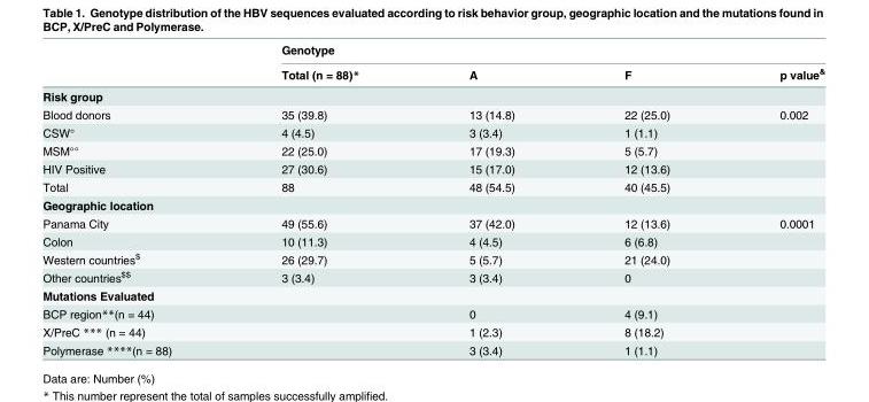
<table><thead><tr><td rowspan="2"></td><td colspan="4">Genotype</td></tr><tr><td>Total (n = 88)*</td><td>A</td><td>F</td><td>p value<sup>&amp;</sup></td></tr></thead><tbody><tr><td colspan="5">Risk group</td></tr><tr><td>Blood donors</td><td>35 (39.8)</td><td>13 (14.8)</td><td>22 (25.0)</td><td>0.002</td></tr><tr><td>CSW°</td><td>4 (4.5)</td><td>3 (3.4)</td><td>1 (1.1)</td><td></td></tr><tr><td>MSM°°</td><td>22 (25.0)</td><td>17 (19.3)</td><td>5 (5.7)</td><td></td></tr><tr><td>HIV Positive</td><td>27 (30.6)</td><td>15 (17.0)</td><td>12 (13.6)</td><td></td></tr><tr><td>Total</td><td>88</td><td>48 (54.5)</td><td>40 (45.5)</td><td></td></tr><tr><td colspan="5">Geographic location</td></tr><tr><td>Panama City</td><td>49 (55.6)</td><td>37 (42.0)</td><td>12 (13.6)</td><td>0.0001</td></tr><tr><td>Colon</td><td>10 (11.3)</td><td>4 (4.5)</td><td>6 (6.8)</td><td></td></tr><tr><td>Western countries<sup>$</sup></td><td>26 (29.7)</td><td>5 (5.7)</td><td>21 (24.0)</td><td></td></tr><tr><td>Other countries<sup>$$</sup></td><td>3 (3.4)</td><td>3 (3.4)</td><td>0</td><td></td></tr><tr><td colspan="5">Mutations Evaluated</td></tr><tr><td>BCP region**(n = 44)</td><td></td><td>0</td><td>4 (9.1)</td><td></td></tr><tr><td>X/PreC *** (n = 44)</td><td></td><td>1 (2.3)</td><td>8 (18.2)</td><td></td></tr><tr><td>Polymerase ****(n = 88)</td><td></td><td>3 (3.4)</td><td>1 (1.1)</td><td></td></tr></tbody></table>